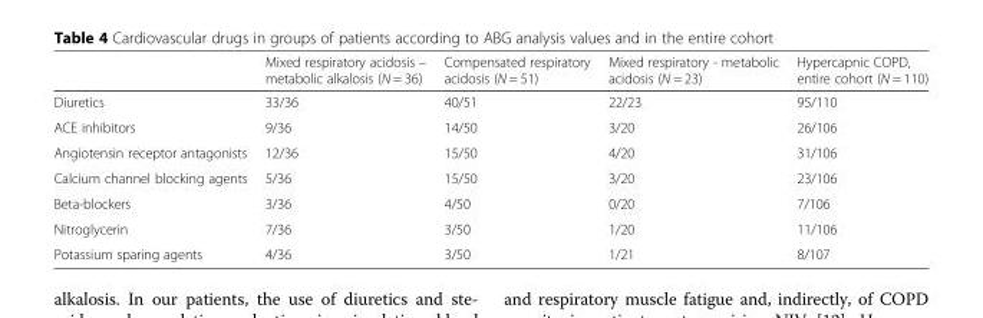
<table><thead><tr><td></td><td>Mixed respiratory acidosis – metabolic alkalosis (N = 36)</td><td>Compensated respiratory acidosis (N = 51)</td><td>Mixed respiratory - metabolic acidosis (N = 23)</td><td>Hypercapnic COPD, entire cohort (N = 110)</td></tr></thead><tbody><tr><td>Diuretics</td><td>33/36</td><td>40/51</td><td>22/23</td><td>95/110</td></tr><tr><td>ACE inhibitors</td><td>9/36</td><td>14/50</td><td>3/20</td><td>26/106</td></tr><tr><td>Angiotensin receptor antagonists</td><td>12/36</td><td>15/50</td><td>4/20</td><td>31/106</td></tr><tr><td>Calcium channel blocking agents</td><td>5/36</td><td>15/50</td><td>3/20</td><td>23/106</td></tr><tr><td>Beta-blockers</td><td>3/36</td><td>4/50</td><td>0/20</td><td>7/106</td></tr><tr><td>Nitroglycerin</td><td>7/36</td><td>3/50</td><td>1/20</td><td>11/106</td></tr><tr><td>Potassium sparing agents</td><td>4/36</td><td>3/50</td><td>1/21</td><td>8/107</td></tr></tbody></table>